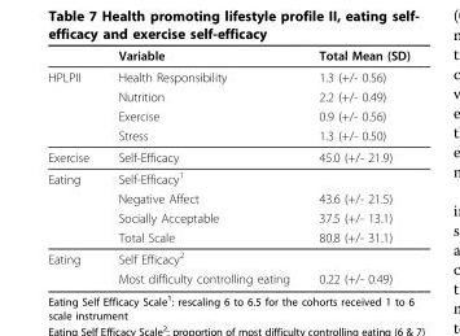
<table><thead><tr><td></td><td>Variable</td><td>Total Mean (SD)</td></tr></thead><tbody><tr><td rowspan="4">HPLPII</td><td>Health Responsibility</td><td>1.3 (+/- 0.56)</td></tr><tr><td>Nutrition</td><td>2.2 (+/- 0.49)</td></tr><tr><td>Exercise</td><td>0.9 (+/- 0.56)</td></tr><tr><td>Stress</td><td>1.3 (+/- 0.50)</td></tr><tr><td>Exercise</td><td>Self-Efficacy</td><td>45.0 (+/- 21.9)</td></tr><tr><td rowspan="4">Eating</td><td>Self-Efficacy<sup>1</sup></td><td></td></tr><tr><td>Negative Affect</td><td>43.6 (+/- 21.5)</td></tr><tr><td>Socially Acceptable</td><td>37.5 (+/- 13.1)</td></tr><tr><td>Total Scale</td><td>80.8 (+/- 31.1)</td></tr><tr><td rowspan="2">Eating</td><td>Self Efficacy<sup>2</sup></td><td></td></tr><tr><td>Most difficulty controlling eating</td><td>0.22 (+/- 0.49)</td></tr></tbody></table>